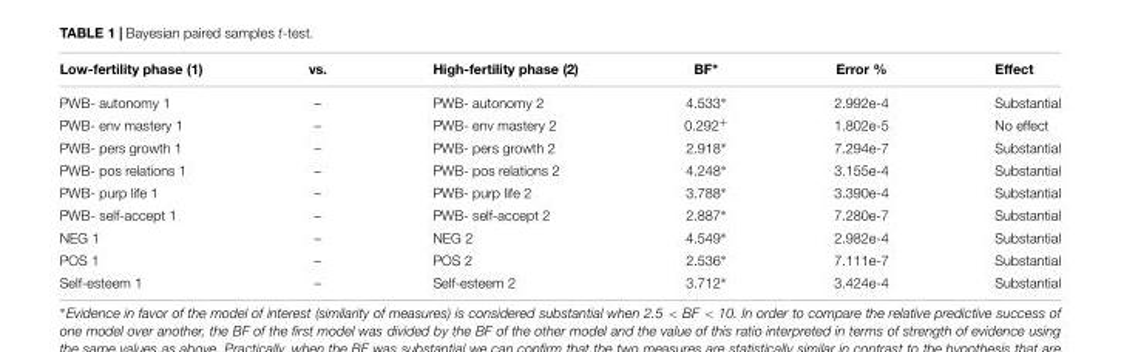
<table><thead><tr><td>Low-fertility phase (1)</td><td>vs.</td><td>High-fertility phase (2)</td><td>BF∗</td><td>Error %</td><td>Effect</td></tr></thead><tbody><tr><td>PWB- autonomy 1</td><td>–</td><td>PWB- autonomy 2</td><td>4.533∗</td><td>2.992e-4</td><td>Substantial</td></tr><tr><td>PWB- env mastery 1</td><td>–</td><td>PWB- env mastery 2</td><td>0.292<sup>+</sup></td><td>1.802e-5</td><td>No effect</td></tr><tr><td>PWB- pers growth 1</td><td>–</td><td>PWB- pers growth 2</td><td>2.918∗</td><td>7.294e-7</td><td>Substantial</td></tr><tr><td>PWB- pos relations 1</td><td>–</td><td>PWB- pos relations 2</td><td>4.248∗</td><td>3.155e-4</td><td>Substantial</td></tr><tr><td>PWB- purp life 1</td><td>–</td><td>PWB- purp life 2</td><td>3.788∗</td><td>3.390e-4</td><td>Substantial</td></tr><tr><td>PWB- self-accept 1</td><td>–</td><td>PWB- self-accept 2</td><td>2.887∗</td><td>7.280e-7</td><td>Substantial</td></tr><tr><td>NEG 1</td><td>–</td><td>NEG 2</td><td>4.549∗</td><td>2.982e-4</td><td>Substantial</td></tr><tr><td>POS 1</td><td>–</td><td>POS 2</td><td>2.536∗</td><td>7.111e-7</td><td>Substantial</td></tr><tr><td>Self-esteem 1</td><td>–</td><td>Self-esteem 2</td><td>3.712∗</td><td>3.424e-4</td><td>Substantial</td></tr></tbody></table>